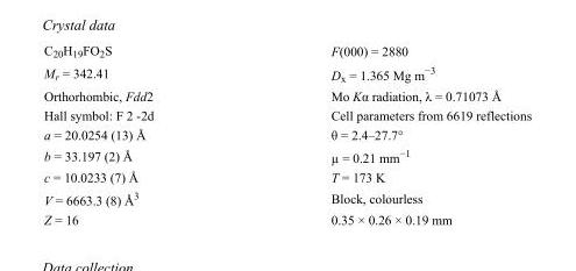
<table><tbody><tr><td>C<sub>20</sub>H<sub>19</sub>FO<sub>2</sub>S</td><td>F(000) = 2880</td></tr><tr><td>M<sub>r</sub> = 342.41</td><td>D<sub>x</sub> = 1.365 Mg m<sup>−3</sup></td></tr><tr><td>Orthorhombic, Fdd2</td><td>Mo Kα radiation, λ = 0.71073 Å</td></tr><tr><td>Hall symbol: F 2 -2d</td><td>Cell parameters from 6619 reflections</td></tr><tr><td>a = 20.0254 (13) Å</td><td>θ = 2.4–27.7°</td></tr><tr><td>b = 33.197 (2) Å</td><td>µ = 0.21 mm<sup>−1</sup></td></tr><tr><td>c = 10.0233 (7) Å</td><td>T = 173 K</td></tr><tr><td>V = 6663.3 (8) Å<sup>3</sup></td><td>Block, colourless</td></tr><tr><td>Z = 16</td><td>0.35 × 0.26 × 0.19 mm</td></tr></tbody></table>